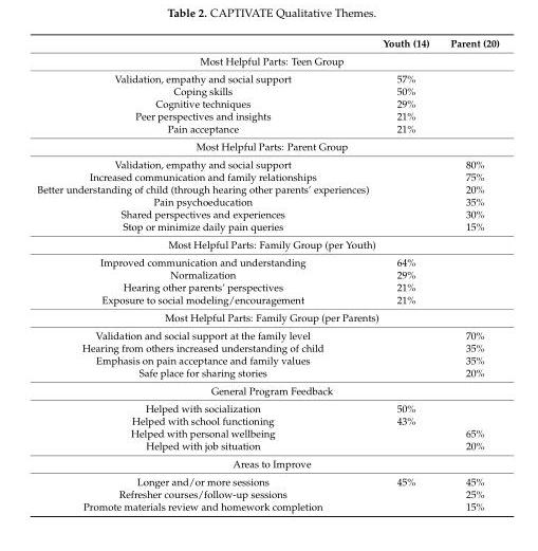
<table><thead><tr><td></td><td>Youth (14)</td><td>Parent (20)</td></tr></thead><tbody><tr><td colspan="3">Most Helpful Parts: Teen Group</td></tr><tr><td>Validation, empathy and social support</td><td>57%</td><td></td></tr><tr><td>Coping skills</td><td>50%</td><td></td></tr><tr><td>Cognitive techniques</td><td>29%</td><td></td></tr><tr><td>Peer perspectives and insights</td><td>21%</td><td></td></tr><tr><td>Pain acceptance</td><td>21%</td><td></td></tr><tr><td colspan="3">Most Helpful Parts: Parent Group</td></tr><tr><td>Validation, empathy and social support</td><td></td><td>80%</td></tr><tr><td>Increased communication and family relationships</td><td></td><td>75%</td></tr><tr><td>Better understanding of child (through hearing other parents’ experiences)</td><td></td><td>20%</td></tr><tr><td>Pain psychoeducation</td><td></td><td>35%</td></tr><tr><td>Shared perspectives and experiences</td><td></td><td>30%</td></tr><tr><td>Stop or minimize daily pain queries</td><td></td><td>15%</td></tr><tr><td colspan="3">Most Helpful Parts: Family Group (per Youth)</td></tr><tr><td>Improved communication and understanding</td><td>64%</td><td></td></tr><tr><td>Normalization</td><td>29%</td><td></td></tr><tr><td>Hearing other parents’ perspectives</td><td>21%</td><td></td></tr><tr><td>Exposure to social modeling/encouragement</td><td>21%</td><td></td></tr><tr><td colspan="3">Most Helpful Parts: Family Group (per Parents)</td></tr><tr><td>Validation and social support at the family level</td><td></td><td>70%</td></tr><tr><td>Hearing from others increased understanding of child</td><td></td><td>35%</td></tr><tr><td>Emphasis on pain acceptance and family values</td><td></td><td>35%</td></tr><tr><td>Safe place for sharing stories</td><td></td><td>20%</td></tr><tr><td colspan="3">General Program Feedback</td></tr><tr><td>Helped with socialization</td><td>50%</td><td></td></tr><tr><td>Helped with school functioning</td><td>43%</td><td></td></tr><tr><td>Helped with personal wellbeing</td><td></td><td>65%</td></tr><tr><td>Helped with job situation</td><td></td><td>20%</td></tr><tr><td colspan="3">Areas to Improve</td></tr><tr><td>Longer and/or more sessions</td><td>45%</td><td>45%</td></tr><tr><td>Refresher courses/follow-up sessions</td><td></td><td>25%</td></tr><tr><td>Promote materials review and homework completion</td><td></td><td>15%</td></tr></tbody></table>